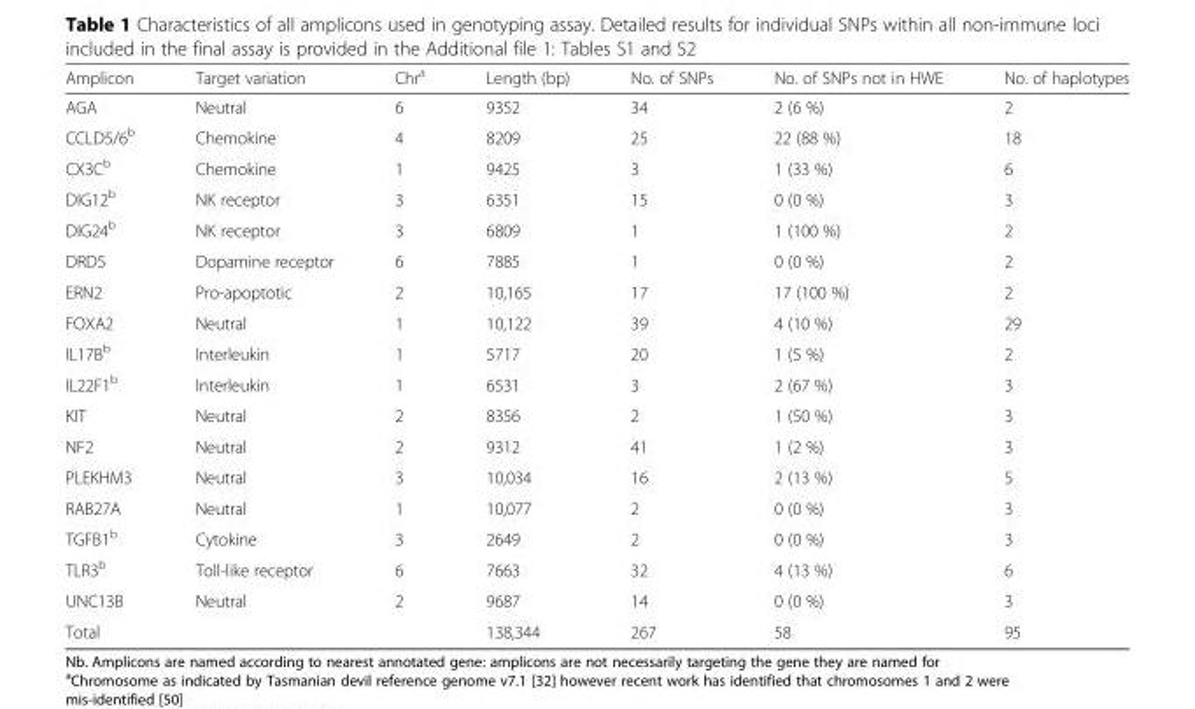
<table><thead><tr><td>Amplicon</td><td>Target variation</td><td>Chr<sup>a</sup></td><td>Length (bp)</td><td>No. of SNPs</td><td>No. of SNPs not in HWE</td><td>No. of haplotypes</td></tr></thead><tbody><tr><td>AGA</td><td>Neutral</td><td>6</td><td>9352</td><td>34</td><td>2 (6 %)</td><td>2</td></tr><tr><td>CCLD5/6<sup>b</sup></td><td>Chemokine</td><td>4</td><td>8209</td><td>25</td><td>22 (88 %)</td><td>18</td></tr><tr><td>CX3C<sup>b</sup></td><td>Chemokine</td><td>1</td><td>9425</td><td>3</td><td>1 (33 %)</td><td>6</td></tr><tr><td>DIG12<sup>b</sup></td><td>NK receptor</td><td>3</td><td>6351</td><td>15</td><td>0 (0 %)</td><td>3</td></tr><tr><td>DIG24<sup>b</sup></td><td>NK receptor</td><td>3</td><td>6809</td><td>1</td><td>1 (100 %)</td><td>2</td></tr><tr><td>DRD5</td><td>Dopamine receptor</td><td>6</td><td>7885</td><td>1</td><td>0 (0 %)</td><td>2</td></tr><tr><td>ERN2</td><td>Pro-apoptotic</td><td>2</td><td>10,165</td><td>17</td><td>17 (100 %)</td><td>2</td></tr><tr><td>FOXA2</td><td>Neutral</td><td>1</td><td>10,122</td><td>39</td><td>4 (10 %)</td><td>29</td></tr><tr><td>IL17B<sup>b</sup></td><td>Interleukin</td><td>1</td><td>5717</td><td>20</td><td>1 (5 %)</td><td>2</td></tr><tr><td>IL22F1<sup>b</sup></td><td>Interleukin</td><td>1</td><td>6531</td><td>3</td><td>2 (67 %)</td><td>3</td></tr><tr><td>KIT</td><td>Neutral</td><td>2</td><td>8356</td><td>2</td><td>1 (50 %)</td><td>3</td></tr><tr><td>NF2</td><td>Neutral</td><td>2</td><td>9312</td><td>41</td><td>1 (2 %)</td><td>3</td></tr><tr><td>PLEKHM3</td><td>Neutral</td><td>3</td><td>10,034</td><td>16</td><td>2 (13 %)</td><td>5</td></tr><tr><td>RAB27A</td><td>Neutral</td><td>1</td><td>10,077</td><td>2</td><td>0 (0 %)</td><td>3</td></tr><tr><td>TGFB1<sup>b</sup></td><td>Cytokine</td><td>3</td><td>2649</td><td>2</td><td>0 (0 %)</td><td>3</td></tr><tr><td>TLR3<sup>b</sup></td><td>Toll-like receptor</td><td>6</td><td>7663</td><td>32</td><td>4 (13 %)</td><td>6</td></tr><tr><td>UNC13B</td><td>Neutral</td><td>2</td><td>9687</td><td>14</td><td>0 (0 %)</td><td>3</td></tr><tr><td>Total</td><td></td><td></td><td>138,344</td><td>267</td><td>58</td><td>95</td></tr></tbody></table>